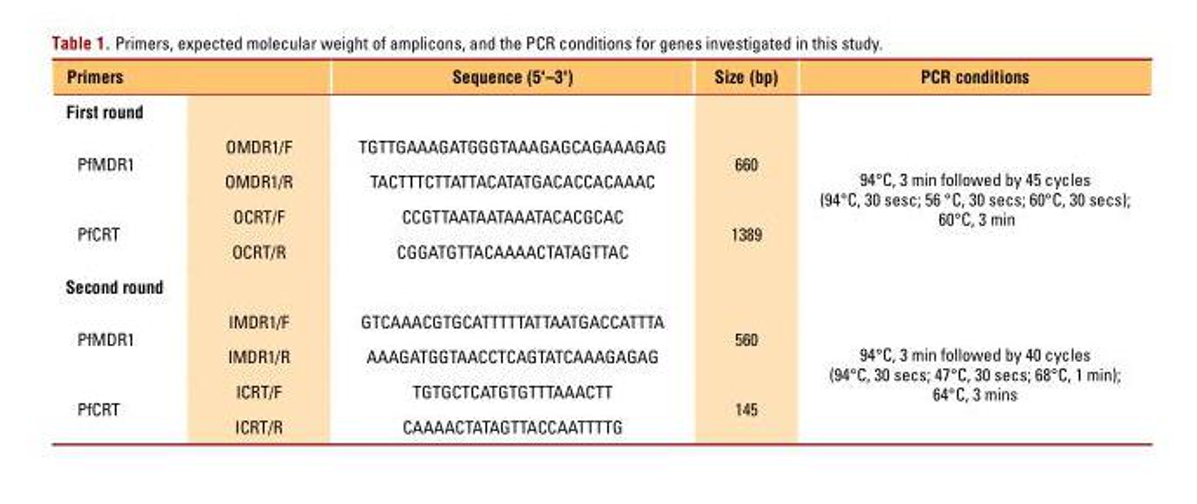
<table><thead><tr><td>Primers</td><td></td><td>Sequence (5&#x27;–3&#x27;)</td><td>Size (bp)</td><td>PCR conditions</td></tr></thead><tbody><tr><td colspan="5">First round</td></tr><tr><td rowspan="2">PfMDR1</td><td>OMDR1/F</td><td>TGTTGAAAGATGGGTAAAGAGCAGAAAGAG</td><td rowspan="2">660</td><td rowspan="4">94°C, 3 min followed by 45 cycles (94°C, 30 sesc; 56 °C, 30 secs; 60°C, 30 secs); 60°C, 3 min</td></tr><tr><td>OMDR1/R</td><td>TACTTTCTTATTACATATGACACCACAAAC</td></tr><tr><td rowspan="2">PfCRT</td><td>OCRT/F</td><td>CCGTTAATAATAAATACACGCAC</td><td rowspan="2">1389</td></tr><tr><td>OCRT/R</td><td>CGGATGTTACAAAACTATAGTTAC</td></tr><tr><td colspan="5">Second round</td></tr><tr><td rowspan="2">PfMDR1</td><td>IMDR1/F</td><td>GTCAAACGTGCATTTTTATTAATGACCATTTA</td><td rowspan="2">560</td><td rowspan="4">94°C, 3 min followed by 40 cycles (94°C, 30 secs; 47°C, 30 secs; 68°C, 1 min); 64°C, 3 mins</td></tr><tr><td>IMDR1/R</td><td>AAAGATGGTAACCTCAGTATCAAAGAGAG</td></tr><tr><td rowspan="2">PfCRT</td><td>ICRT/F</td><td>TGTGCTCATGTGTTTAAACTT</td><td rowspan="2">145</td></tr><tr><td>ICRT/R</td><td>CAAAACTATAGTTACCAATTTTG</td></tr></tbody></table>